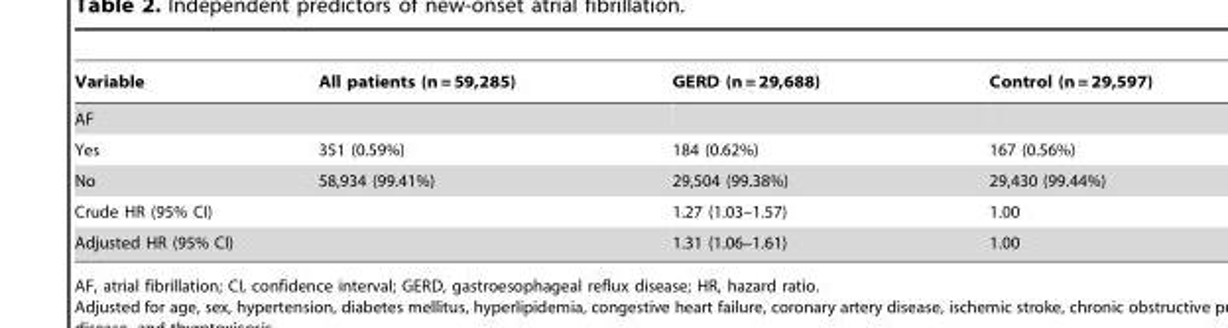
<table><thead><tr><td>Variable</td><td>All patients (n = 59,285)</td><td>GERD (n = 29,688)</td><td>Control (n = 29,597)</td></tr></thead><tbody><tr><td colspan="4">AF</td></tr><tr><td>Yes</td><td>351 (0.59%)</td><td>184 (0.62%)</td><td>167 (0.56%)</td></tr><tr><td>No</td><td>58,934 (99.41%)</td><td>29,504 (99.38%)</td><td>29,430 (99.44%)</td></tr><tr><td>Crude HR (95% CI)</td><td></td><td>1.27 (1.03–1.57)</td><td>1.00</td></tr><tr><td>Adjusted HR (95% CI)</td><td></td><td>1.31 (1.06–1.61)</td><td>1.00</td></tr></tbody></table>